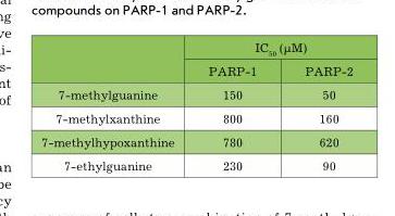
<table><thead><tr><td rowspan="2"></td><td colspan="2">IC<sub>50</sub> (μM)</td></tr><tr><td>PARP-1</td><td>PARP-2</td></tr></thead><tbody><tr><td>7-methylguanine</td><td>150</td><td>50</td></tr><tr><td>7-methylxanthine</td><td>800</td><td>160</td></tr><tr><td>7-methylhypoxanthine</td><td>780</td><td>620</td></tr><tr><td>7-ethylguanine</td><td>230</td><td>90</td></tr></tbody></table>